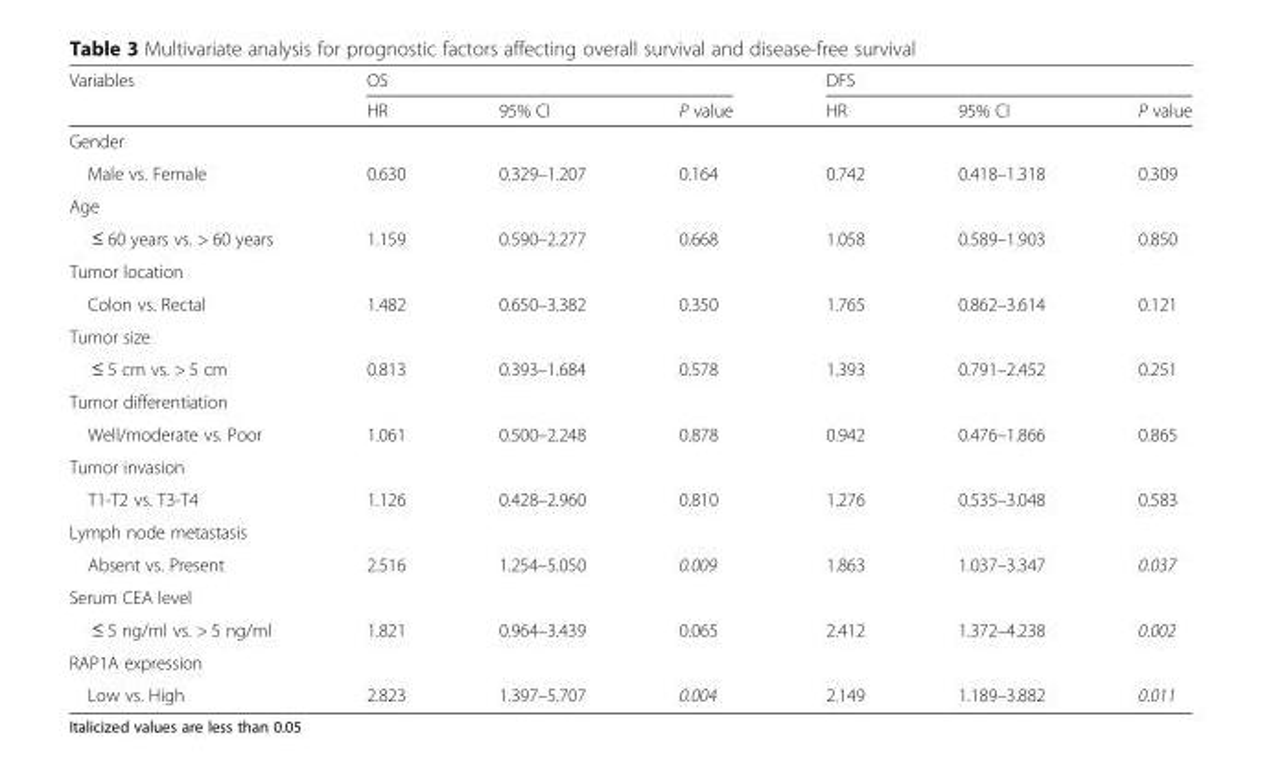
<table><thead><tr><td rowspan="2">Variables</td><td colspan="3">OS</td><td colspan="3">DFS</td></tr><tr><td>HR</td><td>95% CI</td><td>P value</td><td>HR</td><td>95% CI</td><td>P value</td></tr></thead><tbody><tr><td colspan="7">Gender</td></tr><tr><td>Male vs. Female</td><td>0.630</td><td>0.329–1.207</td><td>0.164</td><td>0.742</td><td>0.418–1.318</td><td>0.309</td></tr><tr><td colspan="7">Age</td></tr><tr><td>≤ 60 years vs. &gt; 60 years</td><td>1.159</td><td>0.590–2.277</td><td>0.668</td><td>1.058</td><td>0.589–1.903</td><td>0.850</td></tr><tr><td colspan="7">Tumor location</td></tr><tr><td>Colon vs. Rectal</td><td>1.482</td><td>0.650–3.382</td><td>0.350</td><td>1.765</td><td>0.862–3.614</td><td>0.121</td></tr><tr><td colspan="7">Tumor size</td></tr><tr><td>≤ 5 cm vs. &gt; 5 cm</td><td>0.813</td><td>0.393–1.684</td><td>0.578</td><td>1.393</td><td>0.791–2.452</td><td>0.251</td></tr><tr><td colspan="7">Tumor differentiation</td></tr><tr><td>Well/moderate vs. Poor</td><td>1.061</td><td>0.500–2.248</td><td>0.878</td><td>0.942</td><td>0.476–1.866</td><td>0.865</td></tr><tr><td colspan="7">Tumor invasion</td></tr><tr><td>T1-T2 vs. T3-T4</td><td>1.126</td><td>0.428–2.960</td><td>0.810</td><td>1.276</td><td>0.535–3.048</td><td>0.583</td></tr><tr><td colspan="7">Lymph node metastasis</td></tr><tr><td>Absent vs. Present</td><td>2.516</td><td>1.254–5.050</td><td>0.009</td><td>1.863</td><td>1.037–3.347</td><td>0.037</td></tr><tr><td colspan="7">Serum CEA level</td></tr><tr><td>≤ 5 ng/ml vs. &gt; 5 ng/ml</td><td>1.821</td><td>0.964–3.439</td><td>0.065</td><td>2.412</td><td>1.372–4.238</td><td>0.002</td></tr><tr><td colspan="7">RAP1A expression</td></tr><tr><td>Low vs. High</td><td>2.823</td><td>1.397–5.707</td><td>0.004</td><td>2.149</td><td>1.189–3.882</td><td>0.011</td></tr></tbody></table>